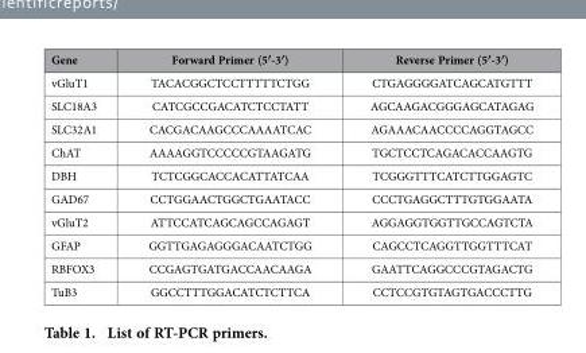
<table><thead><tr><td>Gene</td><td>Forward Primer (5′-3′)</td><td>Reverse Primer (5′-3′)</td></tr></thead><tbody><tr><td>vGluT1</td><td>TACACGGCTCCTTTTTCTGG</td><td>CTGAGGGGATCAGCATGTTT</td></tr><tr><td>SLC18A3</td><td>CATCGCCGACATCTCCTATT</td><td>AGCAAGACGGGAGCATAGAG</td></tr><tr><td>SLC32A1</td><td>CACGACAAGCCCAAAATCAC</td><td>AGAAACAACCCCAGGTAGCC</td></tr><tr><td>ChAT</td><td>AAAAGGTCCCCCGTAAGATG</td><td>TGCTCCTCAGACACCAAGTG</td></tr><tr><td>DBH</td><td>TCTCGGCACCACATTATCAA</td><td>TCGGGTTTCATCTTGGAGTC</td></tr><tr><td>GAD67</td><td>CCTGGAACTGGCTGAATACC</td><td>CCCTGAGGCTTTGTGGAATA</td></tr><tr><td>vGluT2</td><td>ATTCCATCAGCAGCCAGAGT</td><td>AGGAGGTGGTTGCCAGTCTA</td></tr><tr><td>GFAP</td><td>GGTTGAGAGGGACAATCTGG</td><td>CAGCCTCAGGTTGGTTTCAT</td></tr><tr><td>RBFOX3</td><td>CCGAGTGATGACCAACAAGA</td><td>GAATTCAGGCCCGTAGACTG</td></tr><tr><td>TuB3</td><td>GGCCTTTGGACATCTCTTCA</td><td>CCTCCGTGTAGTGACCCTTG</td></tr></tbody></table>